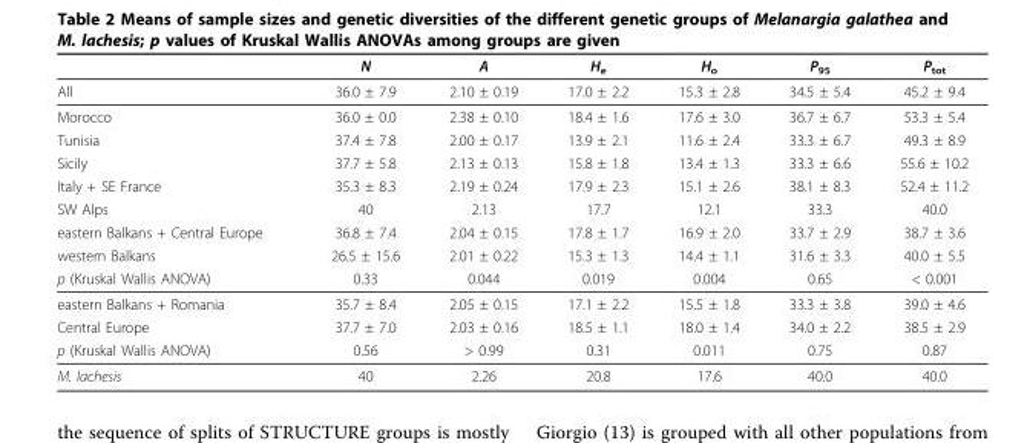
<table><thead><tr><td></td><td>N</td><td>A</td><td>H<sub>e</sub></td><td>H<sub>o</sub></td><td>P<sub>95</sub></td><td>P<sub>tot</sub></td></tr></thead><tbody><tr><td>All</td><td>36.0 ± 7.9</td><td>2.10 ± 0.19</td><td>17.0 ± 2.2</td><td>15.3 ± 2.8</td><td>34.5 ± 5.4</td><td>45.2 ± 9.4</td></tr><tr><td>Morocco</td><td>36.0 ± 0.0</td><td>2.38 ± 0.10</td><td>18.4 ± 1.6</td><td>17.6 ± 3.0</td><td>36.7 ± 6.7</td><td>53.3 ± 5.4</td></tr><tr><td>Tunisia</td><td>37.4 ± 7.8</td><td>2.00 ± 0.17</td><td>13.9 ± 2.1</td><td>11.6 ± 2.4</td><td>33.3 ± 6.7</td><td>49.3 ± 8.9</td></tr><tr><td>Sicily</td><td>37.7 ± 5.8</td><td>2.13 ± 0.13</td><td>15.8 ± 1.8</td><td>13.4 ± 1.3</td><td>33.3 ± 6.6</td><td>55.6 ± 10.2</td></tr><tr><td>Italy + SE France</td><td>35.3 ± 8.3</td><td>2.19 ± 0.24</td><td>17.9 ± 2.3</td><td>15.1 ± 2.6</td><td>38.1 ± 8.3</td><td>52.4 ± 11.2</td></tr><tr><td>SW Alps</td><td>40</td><td>2.13</td><td>17.7</td><td>12.1</td><td>33.3</td><td>40.0</td></tr><tr><td>eastern Balkans + Central Europe</td><td>36.8 ± 7.4</td><td>2.04 ± 0.15</td><td>17.8 ± 1.7</td><td>16.9 ± 2.0</td><td>33.7 ± 2.9</td><td>38.7 ± 3.6</td></tr><tr><td>western Balkans</td><td>26.5 ± 15.6</td><td>2.01 ± 0.22</td><td>15.3 ± 1.3</td><td>14.4 ± 1.1</td><td>31.6 ± 3.3</td><td>40.0 ± 5.5</td></tr><tr><td>p (Kruskal Wallis ANOVA)</td><td>0.33</td><td>0.044</td><td>0.019</td><td>0.004</td><td>0.65</td><td>&lt; 0.001</td></tr><tr><td>eastern Balkans + Romania</td><td>35.7 ± 8.4</td><td>2.05 ± 0.15</td><td>17.1 ± 2.2</td><td>15.5 ± 1.8</td><td>33.3 ± 3.8</td><td>39.0 ± 4.6</td></tr><tr><td>Central Europe</td><td>37.7 ± 7.0</td><td>2.03 ± 0.16</td><td>18.5 ± 1.1</td><td>18.0 ± 1.4</td><td>34.0 ± 2.2</td><td>38.5 ± 2.9</td></tr><tr><td>p (Kruskal Wallis ANOVA)</td><td>0.56</td><td>&gt; 0.99</td><td>0.31</td><td>0.011</td><td>0.75</td><td>0.87</td></tr><tr><td>M. lachesis</td><td>40</td><td>2.26</td><td>20.8</td><td>17.6</td><td>40.0</td><td>40.0</td></tr></tbody></table>